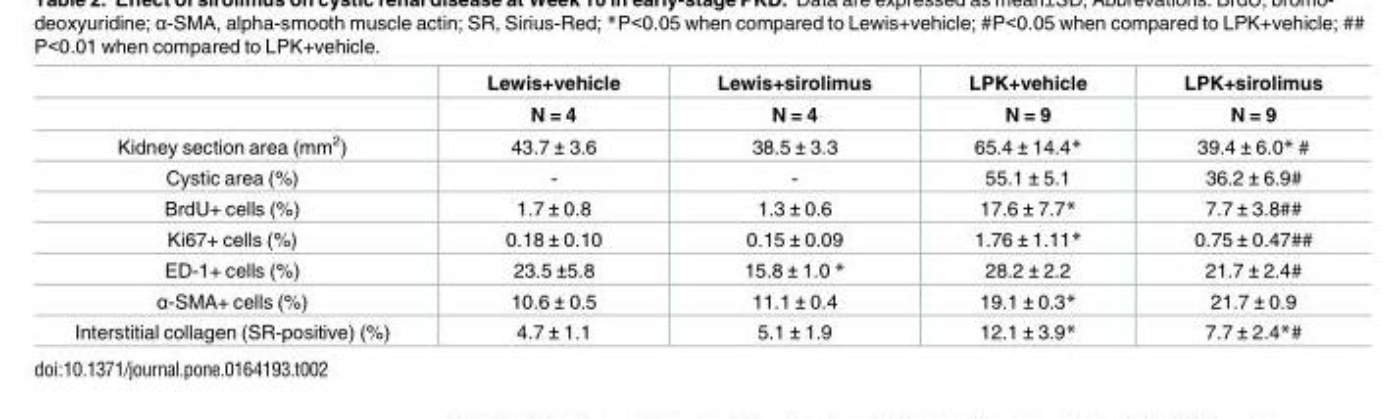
<table><thead><tr><td rowspan="2"></td><td rowspan="2">Lewis+vehicle N = 4</td><td rowspan="2">Lewis+sirolimus N = 4</td><td rowspan="2">LPK+vehicle N = 9</td><td rowspan="2">LPK+sirolimus N = 9</td></tr><tr></tr></thead><tbody><tr><td>Kidney section area (mm<sup>2</sup>)</td><td>43.7 ± 3.6</td><td>38.5 ± 3.3</td><td>65.4 ± 14.4*</td><td>39.4 ± 6.0* #</td></tr><tr><td>Cystic area (%)</td><td>-</td><td>-</td><td>55.1 ± 5.1</td><td>36.2 ± 6.9#</td></tr><tr><td>BrdU+ cells (%)</td><td>1.7 ± 0.8</td><td>1.3 ± 0.6</td><td>17.6 ± 7.7*</td><td>7.7 ± 3.8##</td></tr><tr><td>Ki67+ cells (%)</td><td>0.18 ± 0.10</td><td>0.15 ± 0.09</td><td>1.76 ± 1.11*</td><td>0.75 ± 0.47##</td></tr><tr><td>ED-1+ cells (%)</td><td>23.5 ±5.8</td><td>15.8 ± 1.0 *</td><td>28.2 ± 2.2</td><td>21.7 ± 2.4#</td></tr><tr><td>α-SMA+ cells (%)</td><td>10.6 ± 0.5</td><td>11.1 ± 0.4</td><td>19.1 ± 0.3*</td><td>21.7 ± 0.9</td></tr><tr><td>Interstitial collagen (SR-positive) (%)</td><td>4.7 ± 1.1</td><td>5.1 ± 1.9</td><td>12.1 ± 3.9*</td><td>7.7 ± 2.4*#</td></tr></tbody></table>